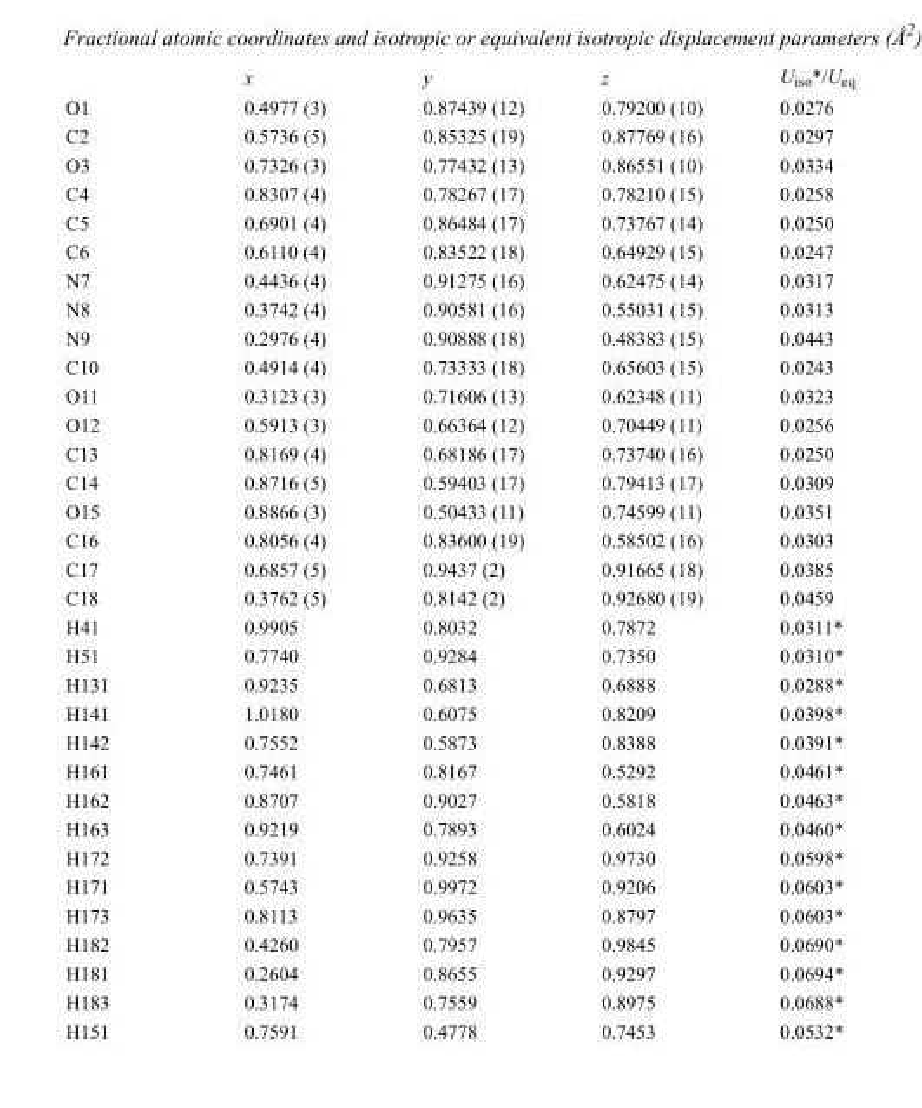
<table><thead><tr><td></td><td>x</td><td>y</td><td>z</td><td>U<sub>iso</sub>*/U<sub>eq</sub></td></tr></thead><tbody><tr><td>O1</td><td>0.4977 (3)</td><td>0.87439 (12)</td><td>0.79200 (10)</td><td>0.0276</td></tr><tr><td>C2</td><td>0.5736 (5)</td><td>0.85325 (19)</td><td>0.87769 (16)</td><td>0.0297</td></tr><tr><td>O3</td><td>0.7326 (3)</td><td>0.77432 (13)</td><td>0.86551 (10)</td><td>0.0334</td></tr><tr><td>C4</td><td>0.8307 (4)</td><td>0.78267 (17)</td><td>0.78210 (15)</td><td>0.0258</td></tr><tr><td>C5</td><td>0.6901 (4)</td><td>0.86484 (17)</td><td>0.73767 (14)</td><td>0.0250</td></tr><tr><td>C6</td><td>0.6110 (4)</td><td>0.83522 (18)</td><td>0.64929 (15)</td><td>0.0247</td></tr><tr><td>N7</td><td>0.4436 (4)</td><td>0.91275 (16)</td><td>0.62475 (14)</td><td>0.0317</td></tr><tr><td>N8</td><td>0.3742 (4)</td><td>0.90581 (16)</td><td>0.55031 (15)</td><td>0.0313</td></tr><tr><td>N9</td><td>0.2976 (4)</td><td>0.90888 (18)</td><td>0.48383 (15)</td><td>0.0443</td></tr><tr><td>C10</td><td>0.4914 (4)</td><td>0.73333 (18)</td><td>0.65603 (15)</td><td>0.0243</td></tr><tr><td>O11</td><td>0.3123 (3)</td><td>0.71606 (13)</td><td>0.62348 (11)</td><td>0.0323</td></tr><tr><td>O12</td><td>0.5913 (3)</td><td>0.66364 (12)</td><td>0.70449 (11)</td><td>0.0256</td></tr><tr><td>C13</td><td>0.8169 (4)</td><td>0.68186 (17)</td><td>0.73740 (16)</td><td>0.0250</td></tr><tr><td>C14</td><td>0.8716 (5)</td><td>0.59403 (17)</td><td>0.79413 (17)</td><td>0.0309</td></tr><tr><td>O15</td><td>0.8866 (3)</td><td>0.50433 (11)</td><td>0.74599 (11)</td><td>0.0351</td></tr><tr><td>C16</td><td>0.8056 (4)</td><td>0.83600 (19)</td><td>0.58502 (16)</td><td>0.0303</td></tr><tr><td>C17</td><td>0.6857 (5)</td><td>0.9437 (2)</td><td>0.91665 (18)</td><td>0.0385</td></tr><tr><td>C18</td><td>0.3762 (5)</td><td>0.8142 (2)</td><td>0.92680 (19)</td><td>0.0459</td></tr><tr><td>H41</td><td>0.9905</td><td>0.8032</td><td>0.7872</td><td>0.0311*</td></tr><tr><td>H51</td><td>0.7740</td><td>0.9284</td><td>0.7350</td><td>0.0310*</td></tr><tr><td>H131</td><td>0.9235</td><td>0.6813</td><td>0.6888</td><td>0.0288*</td></tr><tr><td>H141</td><td>1.0180</td><td>0.6075</td><td>0.8209</td><td>0.0398*</td></tr><tr><td>H142</td><td>0.7552</td><td>0.5873</td><td>0.8388</td><td>0.0391*</td></tr><tr><td>H161</td><td>0.7461</td><td>0.8167</td><td>0.5292</td><td>0.0461*</td></tr><tr><td>H162</td><td>0.8707</td><td>0.9027</td><td>0.5818</td><td>0.0463*</td></tr><tr><td>H163</td><td>0.9219</td><td>0.7893</td><td>0.6024</td><td>0.0460*</td></tr><tr><td>H172</td><td>0.7391</td><td>0.9258</td><td>0.9730</td><td>0.0598*</td></tr><tr><td>H171</td><td>0.5743</td><td>0.9972</td><td>0.9206</td><td>0.0603*</td></tr><tr><td>H173</td><td>0.8113</td><td>0.9635</td><td>0.8797</td><td>0.0603*</td></tr><tr><td>H182</td><td>0.4260</td><td>0.7957</td><td>0.9845</td><td>0.0690*</td></tr><tr><td>H181</td><td>0.2604</td><td>0.8655</td><td>0.9297</td><td>0.0694*</td></tr><tr><td>H183</td><td>0.3174</td><td>0.7559</td><td>0.8975</td><td>0.0688*</td></tr><tr><td>H151</td><td>0.7591</td><td>0.4778</td><td>0.7453</td><td>0.0532*</td></tr></tbody></table>